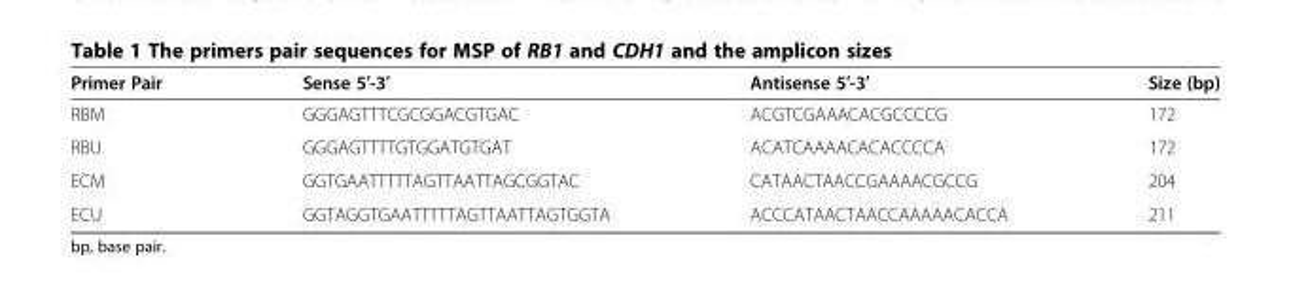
<table><thead><tr><td>Primer Pair</td><td>Sense 5′-3′</td><td>Antisense 5′-3′</td><td>Size (bp)</td></tr></thead><tbody><tr><td>RBM</td><td>GGGAGTTTCGCGGACGTGAC</td><td>ACGTCGAAACACGCCCCG</td><td>172</td></tr><tr><td>RBU</td><td>GGGAGTTTTGTGGATGTGAT</td><td>ACATCAAAACACACCCCA</td><td>172</td></tr><tr><td>ECM</td><td>GGTGAATTTTTAGTTAATTAGCGGTAC</td><td>CATAACTAACCGAAAACGCCG</td><td>204</td></tr><tr><td>ECU</td><td>GGTAGGTGAATTTTTAGTTAATTAGTGGTA</td><td>ACCCATAACTAACCAAAAACACCA</td><td>211</td></tr></tbody></table>